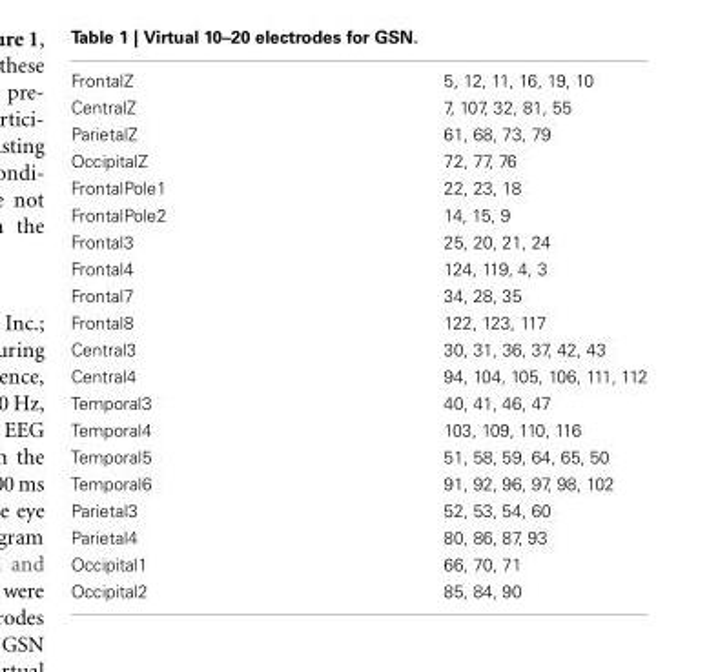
<table><tbody><tr><td>FrontalZ</td><td>5, 12, 11, 16, 19, 10</td></tr><tr><td>CentralZ</td><td>7, 107, 32, 81, 55</td></tr><tr><td>ParietalZ</td><td>61, 68, 73, 79</td></tr><tr><td>OccipitalZ</td><td>72, 77, 76</td></tr><tr><td>FrontalPole1</td><td>22, 23, 18</td></tr><tr><td>FrontalPole2</td><td>14, 15, 9</td></tr><tr><td>Frontal3</td><td>25, 20, 21, 24</td></tr><tr><td>Frontal4</td><td>124, 119, 4, 3</td></tr><tr><td>Frontal7</td><td>34, 28, 35</td></tr><tr><td>Frontal8</td><td>122, 123, 117</td></tr><tr><td>Central3</td><td>30, 31, 36, 37, 42, 43</td></tr><tr><td>Central4</td><td>94, 104, 105, 106, 111, 112</td></tr><tr><td>Temporal3</td><td>40, 41, 46, 47</td></tr><tr><td>Temporal4</td><td>103, 109, 110, 116</td></tr><tr><td>Temporal5</td><td>51, 58, 59, 64, 65, 50</td></tr><tr><td>Temporal6</td><td>91, 92, 96, 97, 98, 102</td></tr><tr><td>Parietal3</td><td>52, 53, 54, 60</td></tr><tr><td>Parietal4</td><td>80, 86, 87, 93</td></tr><tr><td>Occipital1</td><td>66, 70, 71</td></tr><tr><td>Occipital2</td><td>85, 84, 90</td></tr></tbody></table>